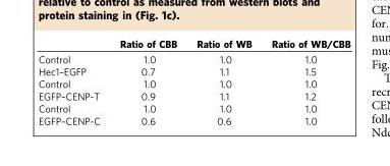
<table><thead><tr><td></td><td>Ratio of CBB</td><td>Ratio of WB</td><td>Ratio of WB/CBB</td></tr></thead><tbody><tr><td>Control</td><td>1.0</td><td>1.0</td><td>1.0</td></tr><tr><td>Hec1–EGFP</td><td>0.7</td><td>1.1</td><td>1.5</td></tr><tr><td>Control</td><td>1.0</td><td>1.0</td><td>1.0</td></tr><tr><td>EGFP–CENP-T</td><td>0.9</td><td>1.1</td><td>1.2</td></tr><tr><td>Control</td><td>1.0</td><td>1.0</td><td>1.0</td></tr><tr><td>EGFP–CENP-C</td><td>0.6</td><td>0.6</td><td>1.0</td></tr></tbody></table>